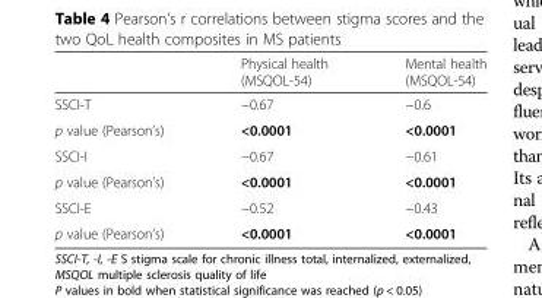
<table><thead><tr><td></td><td>Physical health (MSQOL-54)</td><td>Mental health (MSQOL-54)</td></tr></thead><tbody><tr><td>SSCI-T</td><td>−0.67</td><td>−0.6</td></tr><tr><td>p value (Pearson’s)</td><td>&lt;0.0001</td><td>&lt;0.0001</td></tr><tr><td>SSCI-I</td><td>−0.67</td><td>−0.61</td></tr><tr><td>p value (Pearson’s)</td><td>&lt;0.0001</td><td>&lt;0.0001</td></tr><tr><td>SSCI-E</td><td>−0.52</td><td>−0.43</td></tr><tr><td>p value (Pearson’s)</td><td>&lt;0.0001</td><td>&lt;0.0001</td></tr></tbody></table>